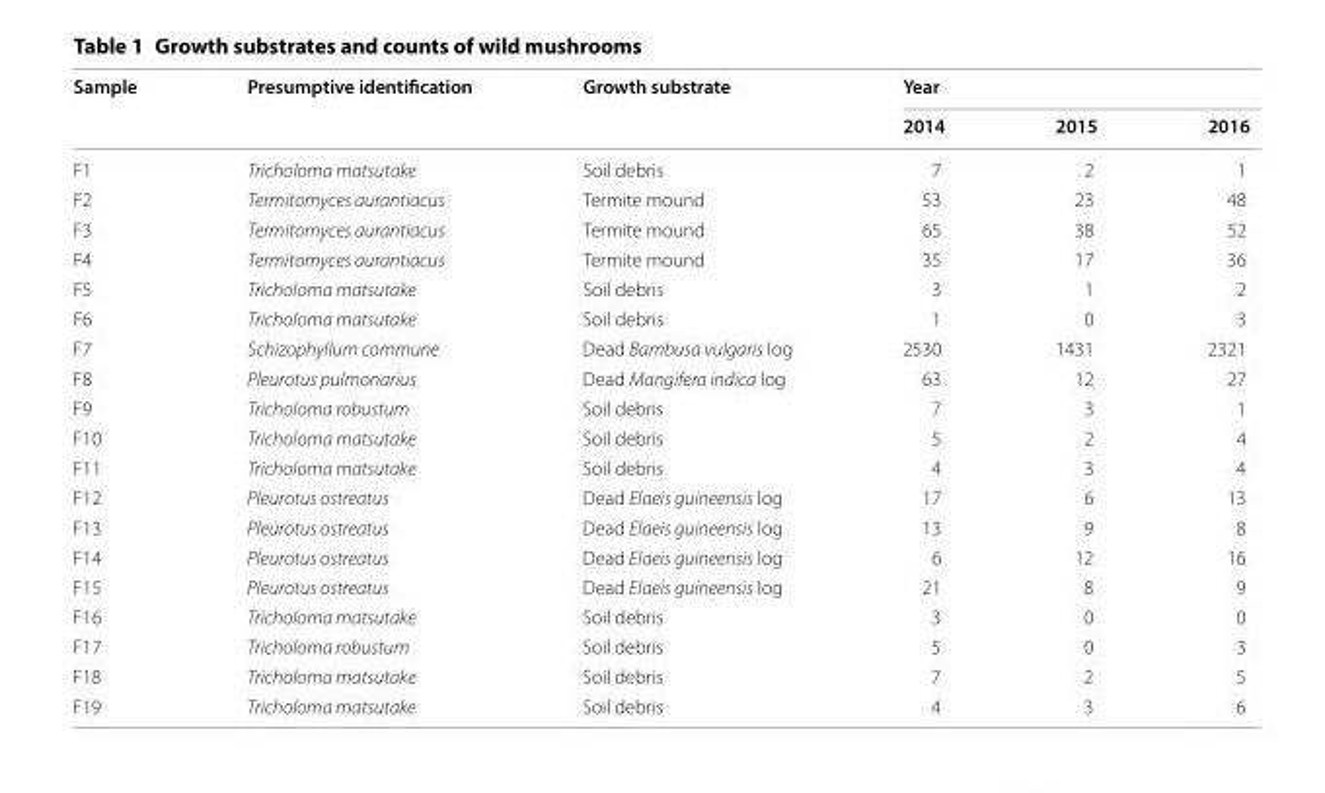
<table><thead><tr><td rowspan="2">Sample</td><td rowspan="2">Presumptive identification</td><td rowspan="2">Growth substrate</td><td colspan="3">Year</td></tr><tr><td>2014</td><td>2015</td><td>2016</td></tr></thead><tbody><tr><td>F1</td><td>Tricholoma matsutake</td><td>Soil debris</td><td>7</td><td>2</td><td>1</td></tr><tr><td>F2</td><td>Termitomyces aurantiacus</td><td>Termite mound</td><td>53</td><td>23</td><td>48</td></tr><tr><td>F3</td><td>Termitomyces aurantiacus</td><td>Termite mound</td><td>65</td><td>38</td><td>52</td></tr><tr><td>F4</td><td>Termitomyces aurantiacus</td><td>Termite mound</td><td>35</td><td>17</td><td>36</td></tr><tr><td>F5</td><td>Tricholoma matsutake</td><td>Soil debris</td><td>3</td><td>1</td><td>2</td></tr><tr><td>F6</td><td>Tricholoma matsutake</td><td>Soil debris</td><td>1</td><td>0</td><td>3</td></tr><tr><td>F7</td><td>Schizophyllum commune</td><td>Dead Bambusa vulgaris log</td><td>2530</td><td>1431</td><td>2321</td></tr><tr><td>F8</td><td>Pleurotus pulmonarius</td><td>Dead Mangifera indica log</td><td>63</td><td>12</td><td>27</td></tr><tr><td>F9</td><td>Tricholoma robustum</td><td>Soil debris</td><td>7</td><td>3</td><td>1</td></tr><tr><td>F10</td><td>Tricholoma matsutake</td><td>Soil debris</td><td>5</td><td>2</td><td>4</td></tr><tr><td>F11</td><td>Tricholoma matsutake</td><td>Soil debris</td><td>4</td><td>3</td><td>4</td></tr><tr><td>F12</td><td>Pleurotus ostreatus</td><td>Dead Elaeis guineensis log</td><td>17</td><td>6</td><td>13</td></tr><tr><td>F13</td><td>Pleurotus ostreatus</td><td>Dead Elaeis guineensis log</td><td>13</td><td>9</td><td>8</td></tr><tr><td>F14</td><td>Pleurotus ostreatus</td><td>Dead Elaeis guineensis log</td><td>6</td><td>12</td><td>16</td></tr><tr><td>F15</td><td>Pleurotus ostreatus</td><td>Dead Elaeis guineensis log</td><td>21</td><td>8</td><td>9</td></tr><tr><td>F16</td><td>Tricholoma matsutake</td><td>Soil debris</td><td>3</td><td>0</td><td>0</td></tr><tr><td>F17</td><td>Tricholoma robustum</td><td>Soil debris</td><td>5</td><td>0</td><td>3</td></tr><tr><td>F18</td><td>Tricholoma matsutake</td><td>Soil debris</td><td>7</td><td>2</td><td>5</td></tr><tr><td>F19</td><td>Tricholoma matsutake</td><td>Soil debris</td><td>4</td><td>3</td><td>6</td></tr></tbody></table>